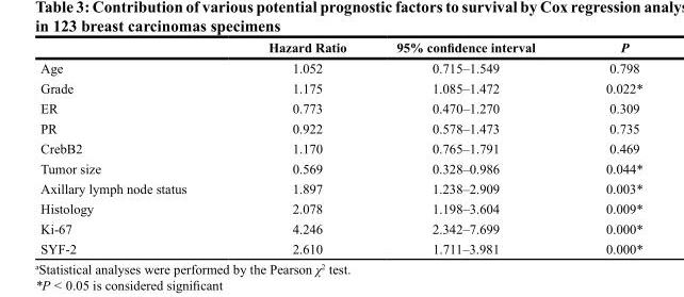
<table><thead><tr><td></td><td>Hazard Ratio</td><td>95% confidence interval</td><td>P</td></tr></thead><tbody><tr><td>Age</td><td>1.052</td><td>0.715–1.549</td><td>0.798</td></tr><tr><td>Grade</td><td>1.175</td><td>1.085–1.472</td><td>0.022*</td></tr><tr><td>ER</td><td>0.773</td><td>0.470–1.270</td><td>0.309</td></tr><tr><td>PR</td><td>0.922</td><td>0.578–1.473</td><td>0.735</td></tr><tr><td>CrebB2</td><td>1.170</td><td>0.765–1.791</td><td>0.469</td></tr><tr><td>Tumor size</td><td>0.569</td><td>0.328–0.986</td><td>0.044*</td></tr><tr><td>Axillary lymph node status</td><td>1.897</td><td>1.238–2.909</td><td>0.003*</td></tr><tr><td>Histology</td><td>2.078</td><td>1.198–3.604</td><td>0.009*</td></tr><tr><td>Ki-67</td><td>4.246</td><td>2.342–7.699</td><td>0.000*</td></tr><tr><td>SYF-2</td><td>2.610</td><td>1.711–3.981</td><td>0.000*</td></tr></tbody></table>